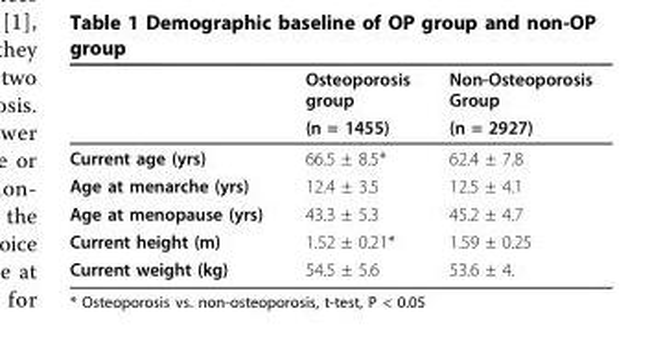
<table><thead><tr><td rowspan="2"></td><td rowspan="2">Osteoporosis group (n = 1455)</td><td rowspan="2">Non-Osteoporosis Group (n = 2927)</td></tr><tr></tr></thead><tbody><tr><td>Current age (yrs)</td><td>66.5 ± 8.5*</td><td>62.4 ± 7.8</td></tr><tr><td>Age at menarche (yrs)</td><td>12.4 ± 3.5</td><td>12.5 ± 4.1</td></tr><tr><td>Age at menopause (yrs)</td><td>43.3 ± 5.3</td><td>45.2 ± 4.7</td></tr><tr><td>Current height (m)</td><td>1.52 ± 0.21*</td><td>1.59 ± 0.25</td></tr><tr><td>Current weight (kg)</td><td>54.5 ± 5.6</td><td>53.6 ± 4.</td></tr></tbody></table>